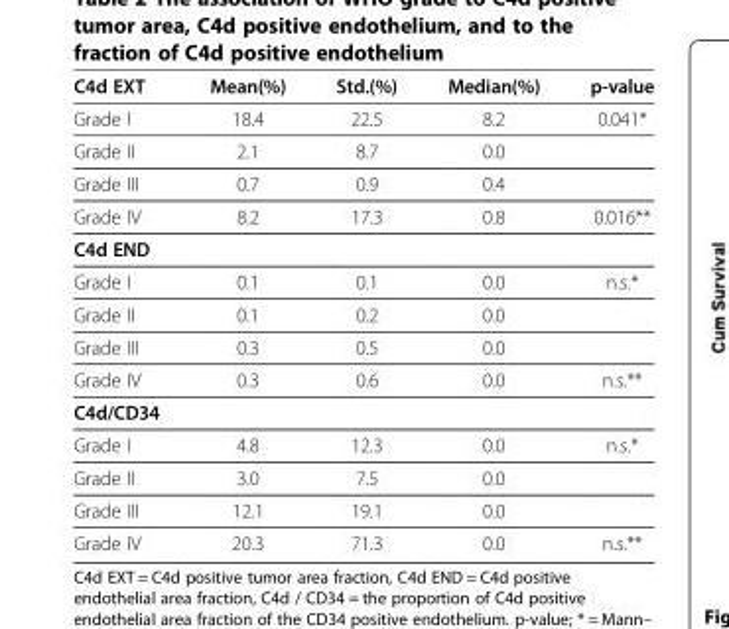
<table><thead><tr><td>C4d EXT</td><td>Mean(%)</td><td>Std.(%)</td><td>Median(%)</td><td>p-value</td></tr></thead><tbody><tr><td>Grade I</td><td>18.4</td><td>22.5</td><td>8.2</td><td>0.041*</td></tr><tr><td>Grade II</td><td>2.1</td><td>8.7</td><td>0.0</td><td></td></tr><tr><td>Grade III</td><td>0.7</td><td>0.9</td><td>0.4</td><td></td></tr><tr><td>Grade IV</td><td>8.2</td><td>17.3</td><td>0.8</td><td>0.016**</td></tr><tr><td colspan="5">C4d END</td></tr><tr><td>Grade I</td><td>0.1</td><td>0.1</td><td>0.0</td><td>n.s.*</td></tr><tr><td>Grade II</td><td>0.1</td><td>0.2</td><td>0.0</td><td></td></tr><tr><td>Grade III</td><td>0.3</td><td>0.5</td><td>0.0</td><td></td></tr><tr><td>Grade IV</td><td>0.3</td><td>0.6</td><td>0.0</td><td>n.s.**</td></tr><tr><td colspan="5">C4d/CD34</td></tr><tr><td>Grade I</td><td>4.8</td><td>12.3</td><td>0.0</td><td>n.s.*</td></tr><tr><td>Grade II</td><td>3.0</td><td>7.5</td><td>0.0</td><td></td></tr><tr><td>Grade III</td><td>12.1</td><td>19.1</td><td>0.0</td><td></td></tr><tr><td>Grade IV</td><td>20.3</td><td>71.3</td><td>0.0</td><td>n.s.**</td></tr></tbody></table>